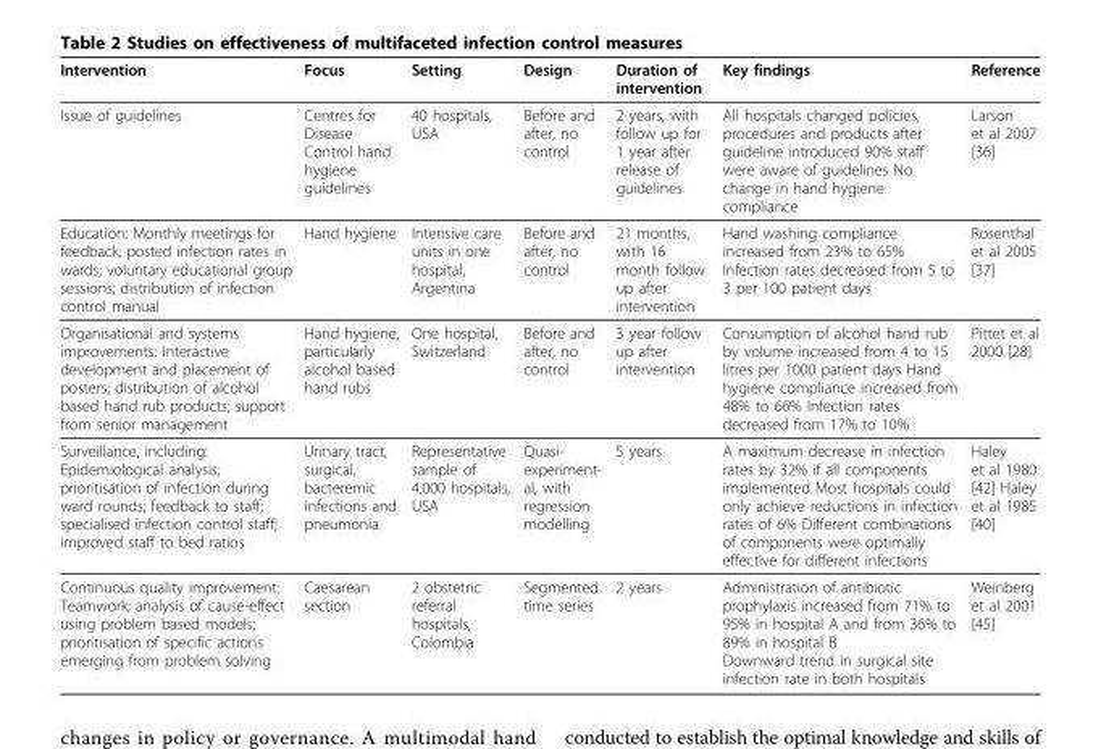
<table><thead><tr><td>Intervention</td><td>Focus</td><td>Setting</td><td>Design</td><td>Duration of intervention</td><td>Key findings</td><td>Reference</td></tr></thead><tbody><tr><td>Issue of guidelines</td><td>Centres for Disease Control hand hygiene guidelines</td><td>40 hospitals, USA</td><td>Before and after, no control</td><td>2 years, with follow up for 1 year after release of guidelines</td><td>All hospitals changed policies, procedures and products after guideline introduced 90% staff were aware of guidelines No change in hand hygiene compliance</td><td>Larson et al 2007 [36]</td></tr><tr><td>Education: Monthly meetings for feedback; posted infection rates in wards; voluntary educational group sessions; distribution of infection control manual</td><td>Hand hygiene</td><td>Intensive care units in one hospital, Argentina</td><td>Before and after, no control</td><td>21 months, with 16 month follow up after intervention</td><td>Hand washing compliance increased from 23% to 65% Infection rates decreased from 5 to 3 per 100 patient days</td><td>Rosenthal et al 2005 [37]</td></tr><tr><td>Organisational and systems improvements: Interactive development and placement of posters; distribution of alcohol based hand rub products; support from senior management</td><td>Hand hygiene, particularly alcohol based hand rubs</td><td>One hospital, Switzerland</td><td>Before and after, no control</td><td>3 year follow up after intervention</td><td>Consumption of alcohol hand rub by volume increased from 4 to 15 litres per 1000 patient days Hand hygiene compliance increased from 48% to 66% Infection rates decreased from 17% to 10%</td><td>Pittet et al 2000 [28]</td></tr><tr><td>Surveillance, including: Epidemiological analysis; prioritisation of infection during ward rounds; feedback to staff; specialised infection control staff; improved staff to bed ratios</td><td>Urinary tract, surgical, bacteremic infections and pneumonia</td><td>Representative sample of 4,000 hospitals, USA</td><td>Quasi- experiment- al, with regression modelling</td><td>5 years</td><td>A maximum decrease in infection rates by 32% if all components implemented Most hospitals could only achieve reductions in infection rates of 6% Different combinations of components were optimally effective for different infections</td><td>Haley et al 1980 [42] Haley et al 1985 [40]</td></tr><tr><td>Continuous quality improvement: Teamwork; analysis of cause-effect using problem based models; prioritisation of specific actions emerging from problem solving</td><td>Caesarean section</td><td>2 obstetric referral hospitals, Colombia</td><td>Segmented time series</td><td>2 years</td><td>Administration of antibiotic prophylaxis increased from 71% to 95% in hospital A and from 36% to 89% in hospital B Downward trend in surgical site infection rate in both hospitals</td><td>Weinberg et al 2001 [45]</td></tr></tbody></table>